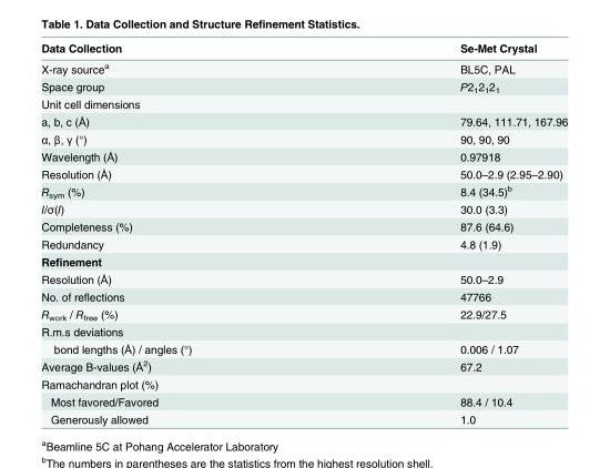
<table><thead><tr><td>Data Collection</td><td>Se-Met Crystal</td></tr></thead><tbody><tr><td>X-ray source<sup>a</sup></td><td>BL5C, PAL</td></tr><tr><td>Space group</td><td>P2<sub>1</sub>2<sub>1</sub>2<sub>1</sub></td></tr><tr><td colspan="2">Unit cell dimensions</td></tr><tr><td>a, b, c (Å)</td><td>79.64, 111.71, 167.96</td></tr><tr><td>α, β, γ (°)</td><td>90, 90, 90</td></tr><tr><td>Wavelength (Å)</td><td>0.97918</td></tr><tr><td>Resolution (Å)</td><td>50.0–2.9 (2.95–2.90)</td></tr><tr><td>R<sub>sym</sub> (%)</td><td>8.4 (34.5)<sup>b</sup></td></tr><tr><td>I/σ(I)</td><td>30.0 (3.3)</td></tr><tr><td>Completeness (%)</td><td>87.6 (64.6)</td></tr><tr><td>Redundancy</td><td>4.8 (1.9)</td></tr><tr><td colspan="2">Refinement</td></tr><tr><td>Resolution (Å)</td><td>50.0–2.9</td></tr><tr><td>No. of reflections</td><td>47766</td></tr><tr><td>R<sub>work</sub> / R<sub>free</sub> (%)</td><td>22.9/27.5</td></tr><tr><td colspan="2">R.m.s deviations</td></tr><tr><td>bond lengths (Å) / angles (°)</td><td>0.006 / 1.07</td></tr><tr><td>Average B-values (Å<sup>2</sup>)</td><td>67.2</td></tr><tr><td colspan="2">Ramachandran plot (%)</td></tr><tr><td>Most favored/Favored</td><td>88.4 / 10.4</td></tr><tr><td>Generously allowed</td><td>1.0</td></tr></tbody></table>